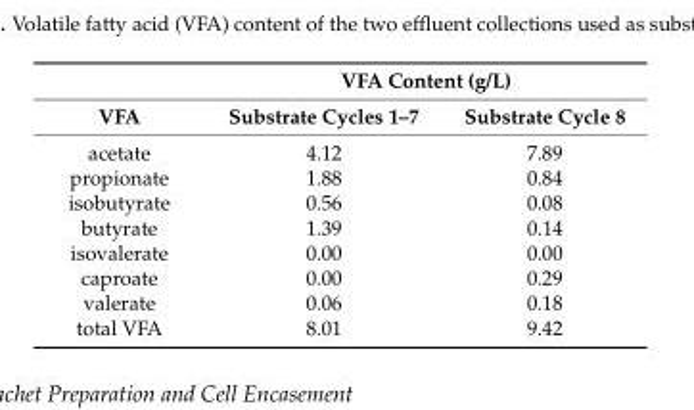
<table><thead><tr><td rowspan="2">VFA</td><td colspan="2">VFA Content (g/L)</td></tr><tr><td>Substrate Cycles 1–7</td><td>Substrate Cycle 8</td></tr></thead><tbody><tr><td>acetate</td><td>4.12</td><td>7.89</td></tr><tr><td>propionate</td><td>1.88</td><td>0.84</td></tr><tr><td>isobutyrate</td><td>0.56</td><td>0.08</td></tr><tr><td>butyrate</td><td>1.39</td><td>0.14</td></tr><tr><td>isovalerate</td><td>0.00</td><td>0.00</td></tr><tr><td>caproate</td><td>0.00</td><td>0.29</td></tr><tr><td>valerate</td><td>0.06</td><td>0.18</td></tr><tr><td>total VFA</td><td>8.01</td><td>9.42</td></tr></tbody></table>